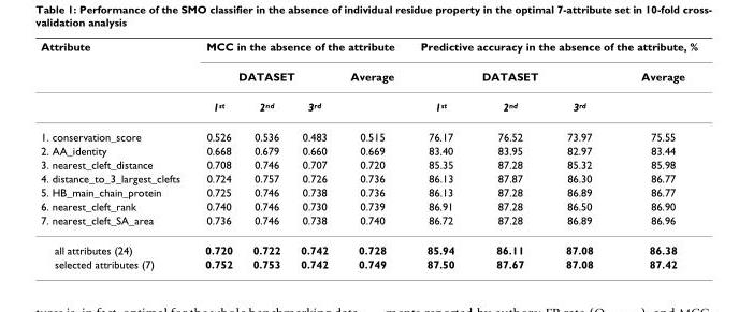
<table><thead><tr><td rowspan="3">Attribute</td><td colspan="4">MCC in the absence of the attribute</td><td colspan="4">Predictive accuracy in the absence of the attribute, %</td></tr><tr><td colspan="3">DATASET</td><td rowspan="2">Average</td><td colspan="3">DATASET</td><td rowspan="2">Average</td></tr><tr><td>1st</td><td>2nd</td><td>3rd</td><td>1st</td><td>2nd</td><td>3rd</td></tr></thead><tbody><tr><td>1. conservation_score</td><td>0.526</td><td>0.536</td><td>0.483</td><td>0.515</td><td>76.17</td><td>76.52</td><td>73.97</td><td>75.55</td></tr><tr><td>2. AA_identity</td><td>0.668</td><td>0.679</td><td>0.660</td><td>0.669</td><td>83.40</td><td>83.95</td><td>82.97</td><td>83.44</td></tr><tr><td>3. nearest_cleft_distance</td><td>0.708</td><td>0.746</td><td>0.707</td><td>0.720</td><td>85.35</td><td>87.28</td><td>85.32</td><td>85.98</td></tr><tr><td>4. distance_to_3_largest_clefts</td><td>0.724</td><td>0.757</td><td>0.726</td><td>0.736</td><td>86.13</td><td>87.87</td><td>86.30</td><td>86.77</td></tr><tr><td>5. HB_main_chain_protein</td><td>0.725</td><td>0.746</td><td>0.738</td><td>0.736</td><td>86.13</td><td>87.28</td><td>86.89</td><td>86.77</td></tr><tr><td>6. nearest_cleft_rank</td><td>0.740</td><td>0.746</td><td>0.730</td><td>0.739</td><td>86.91</td><td>87.28</td><td>86.50</td><td>86.90</td></tr><tr><td>7. nearest_cleft_SA_area</td><td>0.736</td><td>0.746</td><td>0.738</td><td>0.740</td><td>86.72</td><td>87.28</td><td>86.89</td><td>86.96</td></tr><tr><td>all attributes (24)</td><td>0.720</td><td>0.722</td><td>0.742</td><td>0.728</td><td>85.94</td><td>86.11</td><td>87.08</td><td>86.38</td></tr><tr><td>selected attributes (7)</td><td>0.752</td><td>0.753</td><td>0.742</td><td>0.749</td><td>87.50</td><td>87.67</td><td>87.08</td><td>87.42</td></tr></tbody></table>